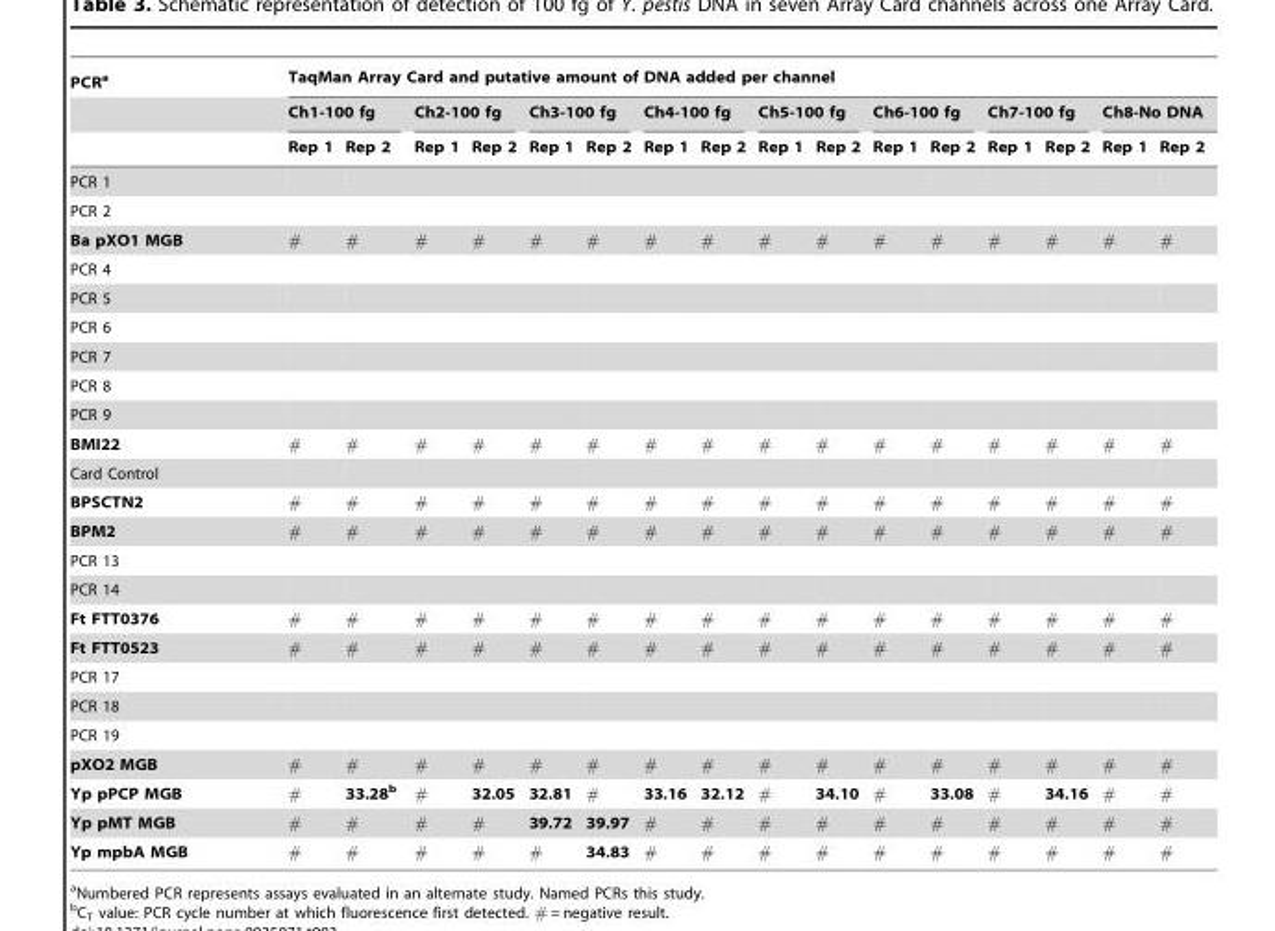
<table><thead><tr><td rowspan="3">PCR<sup>a</sup></td><td colspan="16">TaqMan Array Card and putative amount of DNA added per channel</td></tr><tr><td colspan="2">Ch1-100 fg</td><td colspan="2">Ch2-100 fg</td><td colspan="2">Ch3-100 fg</td><td colspan="2">Ch4-100 fg</td><td colspan="2">Ch5-100 fg</td><td colspan="2">Ch6-100 fg</td><td colspan="2">Ch7-100 fg</td><td colspan="2">Ch8-No DNA</td></tr><tr><td>Rep 1</td><td>Rep 2</td><td>Rep 1</td><td>Rep 2</td><td>Rep 1</td><td>Rep 2</td><td>Rep 1</td><td>Rep 2</td><td>Rep 1</td><td>Rep 2</td><td>Rep 1</td><td>Rep 2</td><td>Rep 1</td><td>Rep 2</td><td>Rep 1</td><td>Rep 2</td></tr></thead><tbody><tr><td colspan="17">PCR 1</td></tr><tr><td colspan="17">PCR 2</td></tr><tr><td>Ba pXO1 MGB</td><td>#</td><td>#</td><td>#</td><td>#</td><td>#</td><td>#</td><td>#</td><td>#</td><td>#</td><td>#</td><td>#</td><td>#</td><td>#</td><td>#</td><td>#</td><td>#</td></tr><tr><td colspan="17">PCR 4</td></tr><tr><td colspan="17">PCR 5</td></tr><tr><td colspan="17">PCR 6</td></tr><tr><td colspan="17">PCR 7</td></tr><tr><td colspan="17">PCR 8</td></tr><tr><td colspan="17">PCR 9</td></tr><tr><td>BMI22</td><td>#</td><td>#</td><td>#</td><td>#</td><td>#</td><td>#</td><td>#</td><td>#</td><td>#</td><td>#</td><td>#</td><td>#</td><td>#</td><td>#</td><td>#</td><td>#</td></tr><tr><td colspan="17">Card Control</td></tr><tr><td>BPSCTN2</td><td>#</td><td>#</td><td>#</td><td>#</td><td>#</td><td>#</td><td>#</td><td>#</td><td>#</td><td>#</td><td>#</td><td>#</td><td>#</td><td>#</td><td>#</td><td>#</td></tr><tr><td>BPM2</td><td>#</td><td>#</td><td>#</td><td>#</td><td>#</td><td>#</td><td>#</td><td>#</td><td>#</td><td>#</td><td>#</td><td>#</td><td>#</td><td>#</td><td>#</td><td>#</td></tr><tr><td colspan="17">PCR 13</td></tr><tr><td colspan="17">PCR 14</td></tr><tr><td>Ft FTT0376</td><td>#</td><td>#</td><td>#</td><td>#</td><td>#</td><td>#</td><td>#</td><td>#</td><td>#</td><td>#</td><td>#</td><td>#</td><td>#</td><td>#</td><td>#</td><td>#</td></tr><tr><td>Ft FTT0523</td><td>#</td><td>#</td><td>#</td><td>#</td><td>#</td><td>#</td><td>#</td><td>#</td><td>#</td><td>#</td><td>#</td><td>#</td><td>#</td><td>#</td><td>#</td><td>#</td></tr><tr><td colspan="17">PCR 17</td></tr><tr><td colspan="17">PCR 18</td></tr><tr><td colspan="17">PCR 19</td></tr><tr><td>pXO2 MGB</td><td>#</td><td>#</td><td>#</td><td>#</td><td>#</td><td>#</td><td>#</td><td>#</td><td>#</td><td>#</td><td>#</td><td>#</td><td>#</td><td>#</td><td>#</td><td>#</td></tr><tr><td>Yp pPCP MGB</td><td>#</td><td>33.28b</td><td>#</td><td>32.05</td><td>32.81</td><td>#</td><td>33.16</td><td>32.12</td><td>#</td><td>34.10</td><td>#</td><td>33.08</td><td>#</td><td>34.16</td><td>#</td><td>#</td></tr><tr><td>Yp pMT MGB</td><td>#</td><td>#</td><td>#</td><td>#</td><td>39.72</td><td>39.97</td><td>#</td><td>#</td><td>#</td><td>#</td><td>#</td><td>#</td><td>#</td><td>#</td><td>#</td><td>#</td></tr><tr><td>Yp mpbA MGB</td><td>#</td><td>#</td><td>#</td><td>#</td><td>#</td><td>34.83</td><td>#</td><td>#</td><td>#</td><td>#</td><td>#</td><td>#</td><td>#</td><td>#</td><td>#</td><td>#</td></tr></tbody></table>